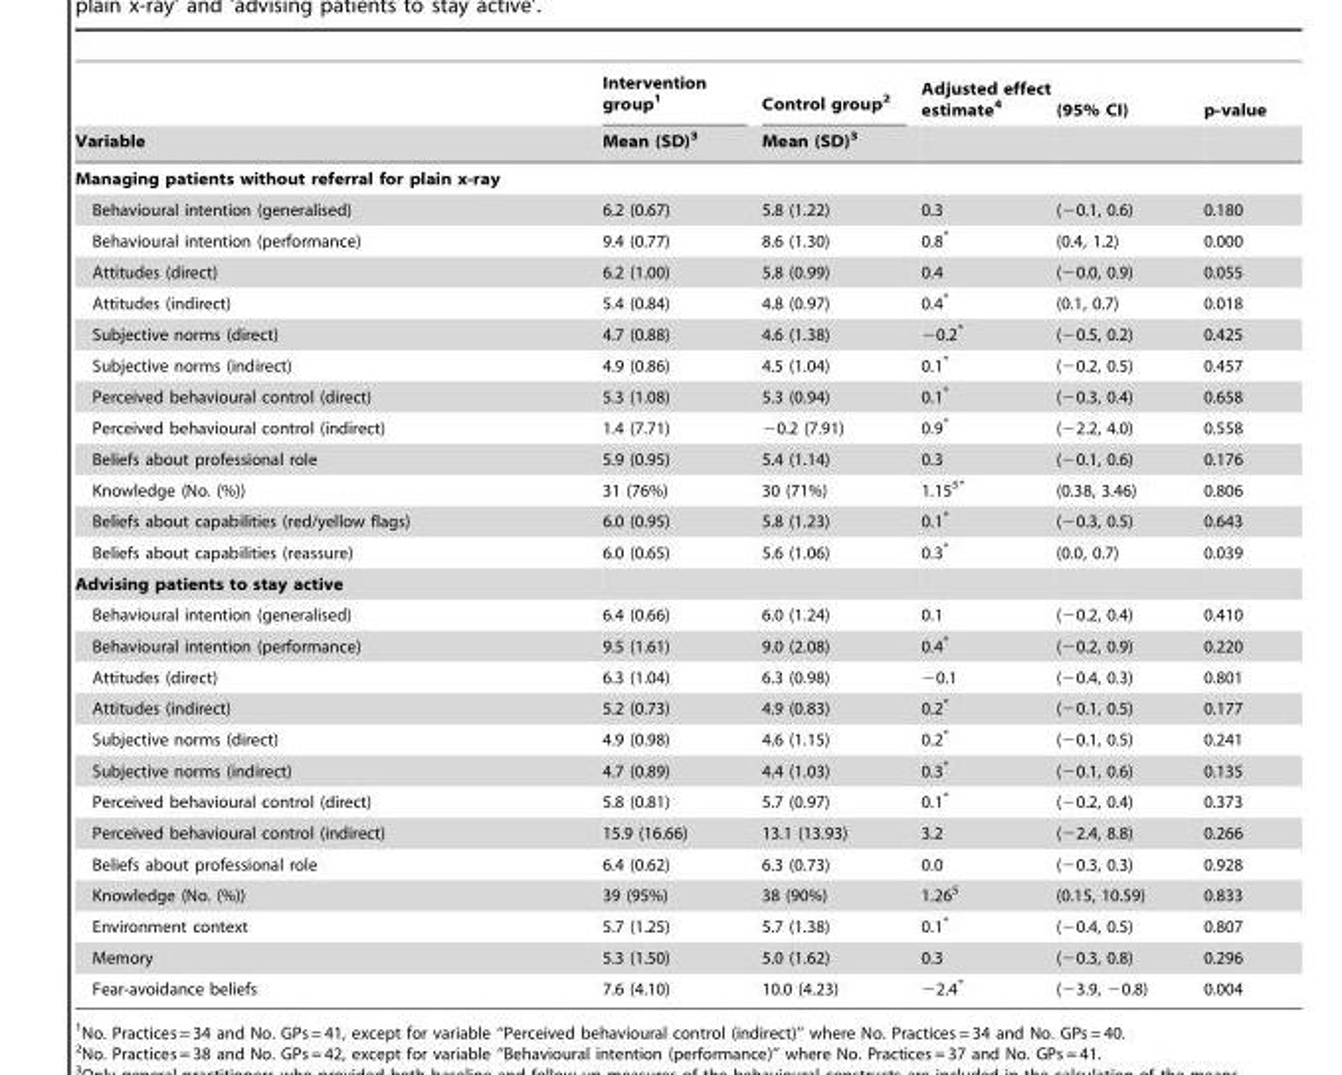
<table><thead><tr><td rowspan="2">Variable</td><td rowspan="2">Intervention group<sup>1</sup> Mean (SD)<sup>3</sup></td><td rowspan="2">Control group<sup>2</sup> Mean (SD)<sup>3</sup></td><td rowspan="2">Adjusted effect estimate<sup>4</sup></td><td rowspan="2">(95% CI)</td><td rowspan="2">p-value</td></tr><tr></tr></thead><tbody><tr><td colspan="6">Managing patients without referral for plain x-ray</td></tr><tr><td>Behavioural intention (generalised)</td><td>6.2 (0.67)</td><td>5.8 (1.22)</td><td>0.3</td><td>(−0.1, 0.6)</td><td>0.180</td></tr><tr><td>Behavioural intention (performance)</td><td>9.4 (0.77)</td><td>8.6 (1.30)</td><td>0.8*</td><td>(0.4, 1.2)</td><td>0.000</td></tr><tr><td>Attitudes (direct)</td><td>6.2 (1.00)</td><td>5.8 (0.99)</td><td>0.4</td><td>(−0.0, 0.9)</td><td>0.055</td></tr><tr><td>Attitudes (indirect)</td><td>5.4 (0.84)</td><td>4.8 (0.97)</td><td>0.4*</td><td>(0.1, 0.7)</td><td>0.018</td></tr><tr><td>Subjective norms (direct)</td><td>4.7 (0.88)</td><td>4.6 (1.38)</td><td>−0.2*</td><td>(−0.5, 0.2)</td><td>0.425</td></tr><tr><td>Subjective norms (indirect)</td><td>4.9 (0.86)</td><td>4.5 (1.04)</td><td>0.1*</td><td>(−0.2, 0.5)</td><td>0.457</td></tr><tr><td>Perceived behavioural control (direct)</td><td>5.3 (1.08)</td><td>5.3 (0.94)</td><td>0.1*</td><td>(−0.3, 0.4)</td><td>0.658</td></tr><tr><td>Perceived behavioural control (indirect)</td><td>1.4 (7.71)</td><td>−0.2 (7.91)</td><td>0.9*</td><td>(−2.2, 4.0)</td><td>0.558</td></tr><tr><td>Beliefs about professional role</td><td>5.9 (0.95)</td><td>5.4 (1.14)</td><td>0.3</td><td>(−0.1, 0.6)</td><td>0.176</td></tr><tr><td>Knowledge (No. (%))</td><td>31 (76%)</td><td>30 (71%)</td><td>1.15<sup>5*</sup></td><td>(0.38, 3.46)</td><td>0.806</td></tr><tr><td>Beliefs about capabilities (red/yellow flags)</td><td>6.0 (0.95)</td><td>5.8 (1.23)</td><td>0.1*</td><td>(−0.3, 0.5)</td><td>0.643</td></tr><tr><td>Beliefs about capabilities (reassure)</td><td>6.0 (0.65)</td><td>5.6 (1.06)</td><td>0.3*</td><td>(0.0, 0.7)</td><td>0.039</td></tr><tr><td colspan="6">Advising patients to stay active</td></tr><tr><td>Behavioural intention (generalised)</td><td>6.4 (0.66)</td><td>6.0 (1.24)</td><td>0.1</td><td>(−0.2, 0.4)</td><td>0.410</td></tr><tr><td>Behavioural intention (performance)</td><td>9.5 (1.61)</td><td>9.0 (2.08)</td><td>0.4*</td><td>(−0.2, 0.9)</td><td>0.220</td></tr><tr><td>Attitudes (direct)</td><td>6.3 (1.04)</td><td>6.3 (0.98)</td><td>−0.1</td><td>(−0.4, 0.3)</td><td>0.801</td></tr><tr><td>Attitudes (indirect)</td><td>5.2 (0.73)</td><td>4.9 (0.83)</td><td>0.2*</td><td>(−0.1, 0.5)</td><td>0.177</td></tr><tr><td>Subjective norms (direct)</td><td>4.9 (0.98)</td><td>4.6 (1.15)</td><td>0.2*</td><td>(−0.1, 0.5)</td><td>0.241</td></tr><tr><td>Subjective norms (indirect)</td><td>4.7 (0.89)</td><td>4.4 (1.03)</td><td>0.3*</td><td>(−0.1, 0.6)</td><td>0.135</td></tr><tr><td>Perceived behavioural control (direct)</td><td>5.8 (0.81)</td><td>5.7 (0.97)</td><td>0.1*</td><td>(−0.2, 0.4)</td><td>0.373</td></tr><tr><td>Perceived behavioural control (indirect)</td><td>15.9 (16.66)</td><td>13.1 (13.93)</td><td>3.2</td><td>(−2.4, 8.8)</td><td>0.266</td></tr><tr><td>Beliefs about professional role</td><td>6.4 (0.62)</td><td>6.3 (0.73)</td><td>0.0</td><td>(−0.3, 0.3)</td><td>0.928</td></tr><tr><td>Knowledge (No. (%))</td><td>39 (95%)</td><td>38 (90%)</td><td>1.26<sup>5</sup></td><td>(0.15, 10.59)</td><td>0.833</td></tr><tr><td>Environment context</td><td>5.7 (1.25)</td><td>5.7 (1.38)</td><td>0.1*</td><td>(−0.4, 0.5)</td><td>0.807</td></tr><tr><td>Memory</td><td>5.3 (1.50)</td><td>5.0 (1.62)</td><td>0.3</td><td>(−0.3, 0.8)</td><td>0.296</td></tr><tr><td>Fear-avoidance beliefs</td><td>7.6 (4.10)</td><td>10.0 (4.23)</td><td>−2.4*</td><td>(−3.9, −0.8)</td><td>0.004</td></tr></tbody></table>